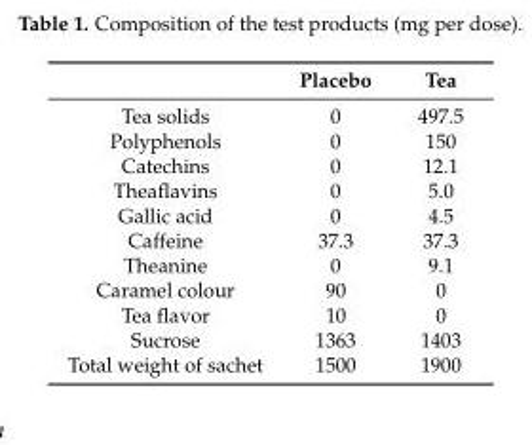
<table><thead><tr><td></td><td>Placebo</td><td>Tea</td></tr></thead><tbody><tr><td>Tea solids</td><td>0</td><td>497.5</td></tr><tr><td>Polyphenols</td><td>0</td><td>150</td></tr><tr><td>Catechins</td><td>0</td><td>12.1</td></tr><tr><td>Theaflavins</td><td>0</td><td>5.0</td></tr><tr><td>Gallic acid</td><td>0</td><td>4.5</td></tr><tr><td>Caffeine</td><td>37.3</td><td>37.3</td></tr><tr><td>Theanine</td><td>0</td><td>9.1</td></tr><tr><td>Caramel colour</td><td>90</td><td>0</td></tr><tr><td>Tea flavor</td><td>10</td><td>0</td></tr><tr><td>Sucrose</td><td>1363</td><td>1403</td></tr><tr><td>Total weight of sachet</td><td>1500</td><td>1900</td></tr></tbody></table>